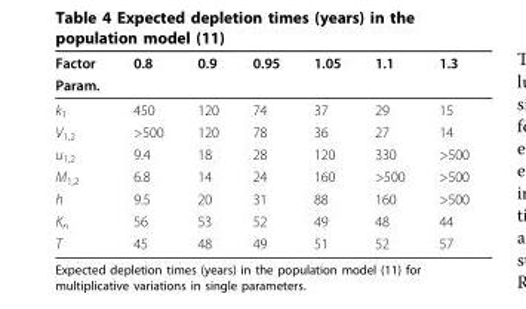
<table><thead><tr><td rowspan="2">Factor Param.</td><td rowspan="2">0.8</td><td rowspan="2">0.9</td><td rowspan="2">0.95</td><td rowspan="2">1.05</td><td rowspan="2">1.1</td><td rowspan="2">1.3</td></tr><tr></tr></thead><tbody><tr><td>k<sub>1</sub></td><td>450</td><td>120</td><td>74</td><td>37</td><td>29</td><td>15</td></tr><tr><td>V<sub>1,2</sub></td><td>&gt;500</td><td>120</td><td>78</td><td>36</td><td>27</td><td>14</td></tr><tr><td>u<sub>1,2</sub></td><td>9.4</td><td>18</td><td>28</td><td>120</td><td>330</td><td>&gt;500</td></tr><tr><td>M<sub>1,2</sub></td><td>6.8</td><td>14</td><td>24</td><td>160</td><td>&gt;500</td><td>&gt;500</td></tr><tr><td>h</td><td>9.5</td><td>20</td><td>31</td><td>88</td><td>160</td><td>&gt;500</td></tr><tr><td>K<sub>n</sub></td><td>56</td><td>53</td><td>52</td><td>49</td><td>48</td><td>44</td></tr><tr><td>T</td><td>45</td><td>48</td><td>49</td><td>51</td><td>52</td><td>57</td></tr></tbody></table>